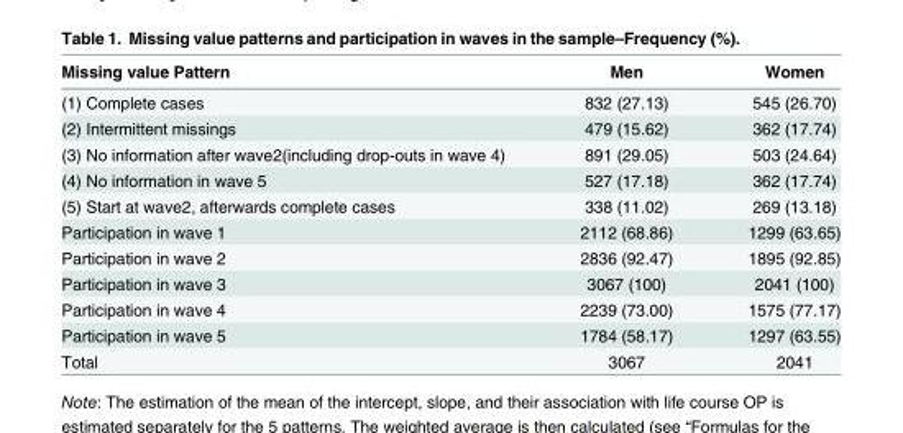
<table><thead><tr><td>Missing value Pattern</td><td>Men</td><td>Women</td></tr></thead><tbody><tr><td>(1) Complete cases</td><td>832 (27.13)</td><td>545 (26.70)</td></tr><tr><td>(2) Intermittent missings</td><td>479 (15.62)</td><td>362 (17.74)</td></tr><tr><td>(3) No information after wave2(including drop-outs in wave 4)</td><td>891 (29.05)</td><td>503 (24.64)</td></tr><tr><td>(4) No information in wave 5</td><td>527 (17.18)</td><td>362 (17.74)</td></tr><tr><td>(5) Start at wave2, afterwards complete cases</td><td>338 (11.02)</td><td>269 (13.18)</td></tr><tr><td>Participation in wave 1</td><td>2112 (68.86)</td><td>1299 (63.65)</td></tr><tr><td>Participation in wave 2</td><td>2836 (92.47)</td><td>1895 (92.85)</td></tr><tr><td>Participation in wave 3</td><td>3067 (100)</td><td>2041 (100)</td></tr><tr><td>Participation in wave 4</td><td>2239 (73.00)</td><td>1575 (77.17)</td></tr><tr><td>Participation in wave 5</td><td>1784 (58.17)</td><td>1297 (63.55)</td></tr><tr><td>Total</td><td>3067</td><td>2041</td></tr></tbody></table>